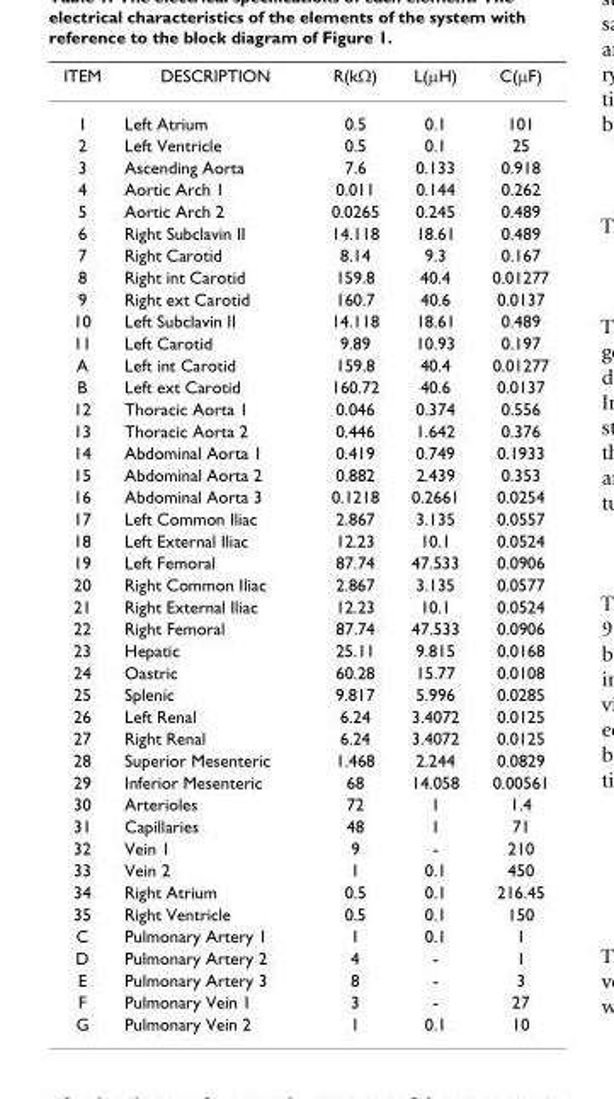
<table><thead><tr><td>ITEM</td><td>DESCRIPTION</td><td>R(kΩ)</td><td>L(µH)</td><td>C(µF)</td></tr></thead><tbody><tr><td>1</td><td>Left Atrium</td><td>0.5</td><td>0.1</td><td>101</td></tr><tr><td>2</td><td>Left Ventricle</td><td>0.5</td><td>0.1</td><td>25</td></tr><tr><td>3</td><td>Ascending Aorta</td><td>7.6</td><td>0.133</td><td>0.918</td></tr><tr><td>4</td><td>Aortic Arch 1</td><td>0.011</td><td>0.144</td><td>0.262</td></tr><tr><td>5</td><td>Aortic Arch 2</td><td>0.0265</td><td>0.245</td><td>0.489</td></tr><tr><td>6</td><td>Right Subclavin II</td><td>14.118</td><td>18.61</td><td>0.489</td></tr><tr><td>7</td><td>Right Carotid</td><td>8.14</td><td>9.3</td><td>0.167</td></tr><tr><td>8</td><td>Right int Carotid</td><td>159.8</td><td>40.4</td><td>0.01277</td></tr><tr><td>9</td><td>Right ext Carotid</td><td>160.7</td><td>40.6</td><td>0.0137</td></tr><tr><td>10</td><td>Left Subclavin II</td><td>14.118</td><td>18.61</td><td>0.489</td></tr><tr><td>11</td><td>Left Carotid</td><td>9.89</td><td>10.93</td><td>0.197</td></tr><tr><td>A</td><td>Left int Carotid</td><td>159.8</td><td>40.4</td><td>0.01277</td></tr><tr><td>B</td><td>Left ext Carotid</td><td>160.72</td><td>40.6</td><td>0.0137</td></tr><tr><td>12</td><td>Thoracic Aorta 1</td><td>0.046</td><td>0.374</td><td>0.556</td></tr><tr><td>13</td><td>Thoracic Aorta 2</td><td>0.446</td><td>1.642</td><td>0.376</td></tr><tr><td>14</td><td>Abdominal Aorta 1</td><td>0.419</td><td>0.749</td><td>0.1933</td></tr><tr><td>15</td><td>Abdominal Aorta 2</td><td>0.882</td><td>2.439</td><td>0.353</td></tr><tr><td>16</td><td>Abdominal Aorta 3</td><td>0.1218</td><td>0.2661</td><td>0.0254</td></tr><tr><td>17</td><td>Left Common Iliac</td><td>2.867</td><td>3.135</td><td>0.0557</td></tr><tr><td>18</td><td>Left External Iliac</td><td>12.23</td><td>10.1</td><td>0.0524</td></tr><tr><td>19</td><td>Left Femoral</td><td>87.74</td><td>47.533</td><td>0.0906</td></tr><tr><td>20</td><td>Right Common Iliac</td><td>2.867</td><td>3.135</td><td>0.0577</td></tr><tr><td>21</td><td>Right External Iliac</td><td>12.23</td><td>10.1</td><td>0.0524</td></tr><tr><td>22</td><td>Right Femoral</td><td>87.74</td><td>47.533</td><td>0.0906</td></tr><tr><td>23</td><td>Hepatic</td><td>25.11</td><td>9.815</td><td>0.0168</td></tr><tr><td>24</td><td>Oastric</td><td>60.28</td><td>15.77</td><td>0.0108</td></tr><tr><td>25</td><td>Splenic</td><td>9.817</td><td>5.996</td><td>0.0285</td></tr><tr><td>26</td><td>Left Renal</td><td>6.24</td><td>3.4072</td><td>0.0125</td></tr><tr><td>27</td><td>Right Renal</td><td>6.24</td><td>3.4072</td><td>0.0125</td></tr><tr><td>28</td><td>Superior Mesenteric</td><td>1.468</td><td>2.244</td><td>0.0829</td></tr><tr><td>29</td><td>Inferior Mesenteric</td><td>68</td><td>14.058</td><td>0.00561</td></tr><tr><td>30</td><td>Arterioles</td><td>72</td><td>1</td><td>1.4</td></tr><tr><td>31</td><td>Capillaries</td><td>48</td><td>1</td><td>71</td></tr><tr><td>32</td><td>Vein 1</td><td>9</td><td>-</td><td>210</td></tr><tr><td>33</td><td>Vein 2</td><td>1</td><td>0.1</td><td>450</td></tr><tr><td>34</td><td>Right Atrium</td><td>0.5</td><td>0.1</td><td>216.45</td></tr><tr><td>35</td><td>Right Ventricle</td><td>0.5</td><td>0.1</td><td>150</td></tr><tr><td>C</td><td>Pulmonary Artery 1</td><td>1</td><td>0.1</td><td>1</td></tr><tr><td>D</td><td>Pulmonary Artery 2</td><td>4</td><td>-</td><td>1</td></tr><tr><td>E</td><td>Pulmonary Artery 3</td><td>8</td><td>-</td><td>3</td></tr><tr><td>F</td><td>Pulmonary Vein 1</td><td>3</td><td>-</td><td>27</td></tr><tr><td>G</td><td>Pulmonary Vein 2</td><td>1</td><td>0.1</td><td>10</td></tr></tbody></table>